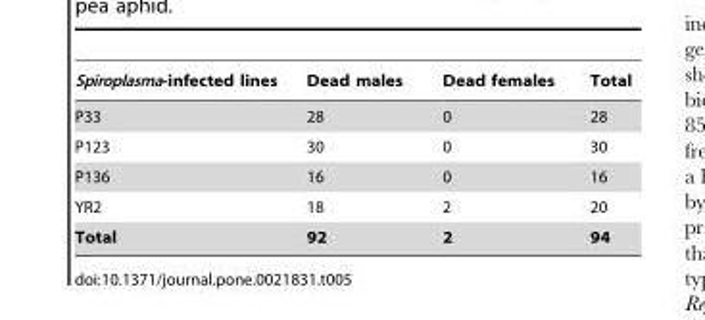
<table><thead><tr><td>Spiroplasma-infected lines</td><td>Dead males</td><td>Dead females</td><td>Total</td></tr></thead><tbody><tr><td>P33</td><td>28</td><td>0</td><td>28</td></tr><tr><td>P123</td><td>30</td><td>0</td><td>30</td></tr><tr><td>P136</td><td>16</td><td>0</td><td>16</td></tr><tr><td>YR2</td><td>18</td><td>2</td><td>20</td></tr><tr><td>Total</td><td>92</td><td>2</td><td>94</td></tr></tbody></table>